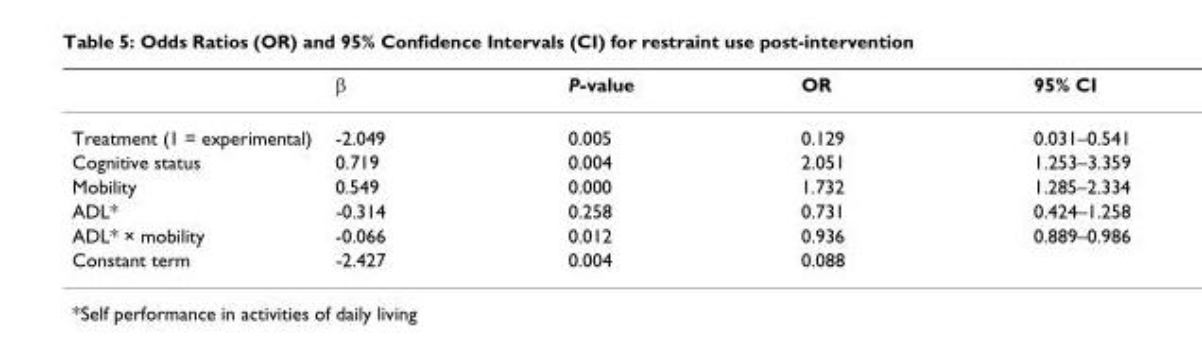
<table><thead><tr><td></td><td>β</td><td>P-value</td><td>OR</td><td>95% CI</td></tr></thead><tbody><tr><td>Treatment (1 = experimental)</td><td>-2.049</td><td>0.005</td><td>0.129</td><td>0.031–0.541</td></tr><tr><td>Cognitive status</td><td>0.719</td><td>0.004</td><td>2.051</td><td>1.253–3.359</td></tr><tr><td>Mobility</td><td>0.549</td><td>0.000</td><td>1.732</td><td>1.285–2.334</td></tr><tr><td>ADL*</td><td>-0.314</td><td>0.258</td><td>0.731</td><td>0.424–1.258</td></tr><tr><td>ADL* × mobility</td><td>-0.066</td><td>0.012</td><td>0.936</td><td>0.889–0.986</td></tr><tr><td>Constant term</td><td>-2.427</td><td>0.004</td><td>0.088</td><td></td></tr></tbody></table>